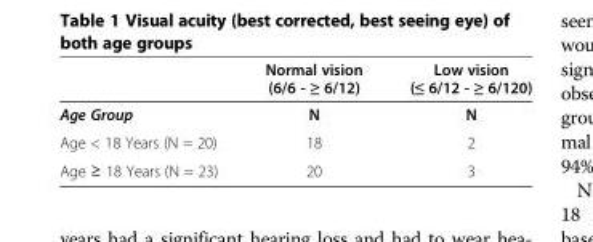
<table><thead><tr><td></td><td>Normal vision (6/6 - ≥ 6/12)</td><td>Low vision (≤ 6/12 - ≥ 6/120)</td></tr></thead><tbody><tr><td>Age Group</td><td>N</td><td>N</td></tr><tr><td>Age &lt; 18 Years (N = 20)</td><td>18</td><td>2</td></tr><tr><td>Age ≥ 18 Years (N = 23)</td><td>20</td><td>3</td></tr></tbody></table>